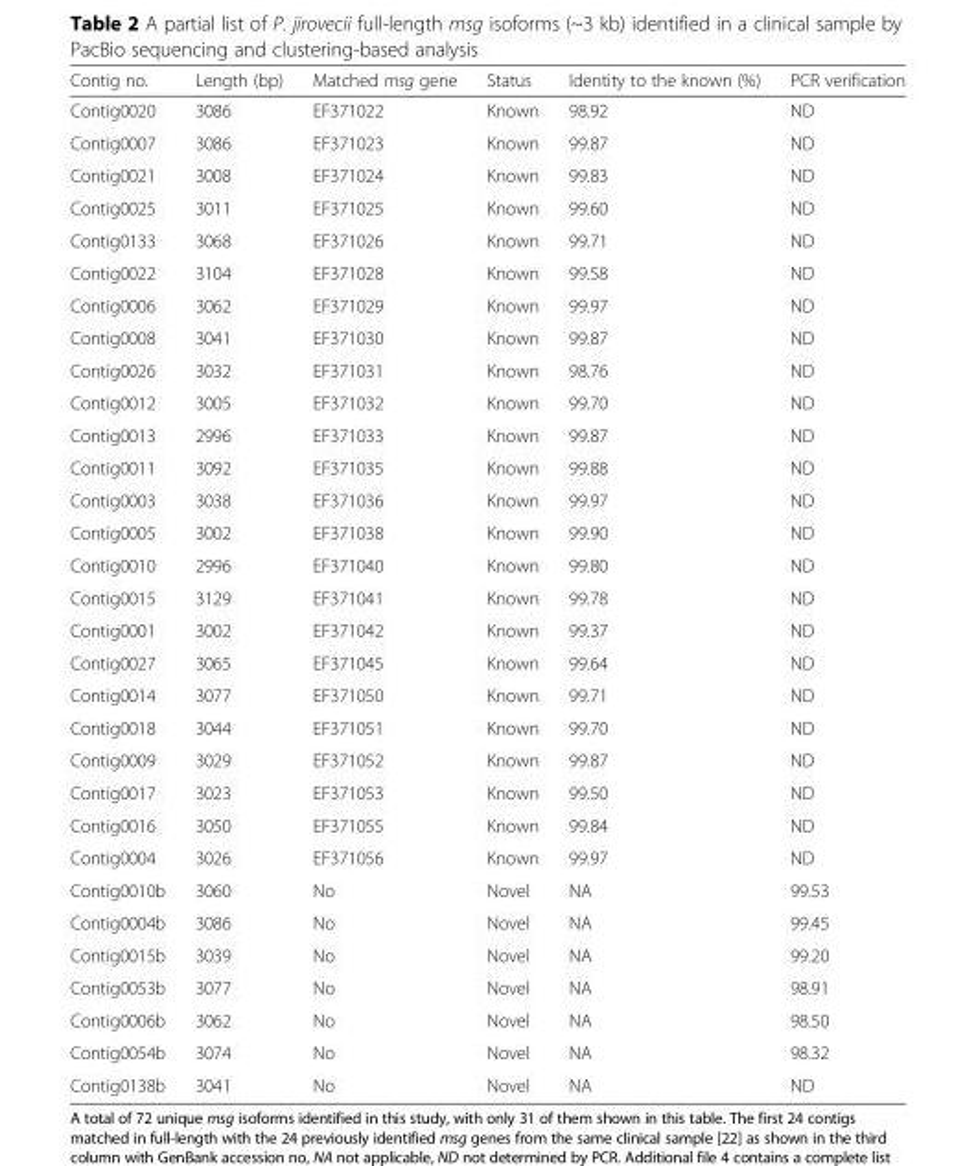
<table><thead><tr><td>Contig no.</td><td>Length (bp)</td><td>Matched msg gene</td><td>Status</td><td>Identity to the known (%)</td><td>PCR verification</td></tr></thead><tbody><tr><td>Contig0020</td><td>3086</td><td>EF371022</td><td>Known</td><td>98.92</td><td>ND</td></tr><tr><td>Contig0007</td><td>3086</td><td>EF371023</td><td>Known</td><td>99.87</td><td>ND</td></tr><tr><td>Contig0021</td><td>3008</td><td>EF371024</td><td>Known</td><td>99.83</td><td>ND</td></tr><tr><td>Contig0025</td><td>3011</td><td>EF371025</td><td>Known</td><td>99.60</td><td>ND</td></tr><tr><td>Contig0133</td><td>3068</td><td>EF371026</td><td>Known</td><td>99.71</td><td>ND</td></tr><tr><td>Contig0022</td><td>3104</td><td>EF371028</td><td>Known</td><td>99.58</td><td>ND</td></tr><tr><td>Contig0006</td><td>3062</td><td>EF371029</td><td>Known</td><td>99.97</td><td>ND</td></tr><tr><td>Contig0008</td><td>3041</td><td>EF371030</td><td>Known</td><td>99.87</td><td>ND</td></tr><tr><td>Contig0026</td><td>3032</td><td>EF371031</td><td>Known</td><td>98.76</td><td>ND</td></tr><tr><td>Contig0012</td><td>3005</td><td>EF371032</td><td>Known</td><td>99.70</td><td>ND</td></tr><tr><td>Contig0013</td><td>2996</td><td>EF371033</td><td>Known</td><td>99.87</td><td>ND</td></tr><tr><td>Contig0011</td><td>3092</td><td>EF371035</td><td>Known</td><td>99.88</td><td>ND</td></tr><tr><td>Contig0003</td><td>3038</td><td>EF371036</td><td>Known</td><td>99.97</td><td>ND</td></tr><tr><td>Contig0005</td><td>3002</td><td>EF371038</td><td>Known</td><td>99.90</td><td>ND</td></tr><tr><td>Contig0010</td><td>2996</td><td>EF371040</td><td>Known</td><td>99.80</td><td>ND</td></tr><tr><td>Contig0015</td><td>3129</td><td>EF371041</td><td>Known</td><td>99.78</td><td>ND</td></tr><tr><td>Contig0001</td><td>3002</td><td>EF371042</td><td>Known</td><td>99.37</td><td>ND</td></tr><tr><td>Contig0027</td><td>3065</td><td>EF371045</td><td>Known</td><td>99.64</td><td>ND</td></tr><tr><td>Contig0014</td><td>3077</td><td>EF371050</td><td>Known</td><td>99.71</td><td>ND</td></tr><tr><td>Contig0018</td><td>3044</td><td>EF371051</td><td>Known</td><td>99.70</td><td>ND</td></tr><tr><td>Contig0009</td><td>3029</td><td>EF371052</td><td>Known</td><td>99.87</td><td>ND</td></tr><tr><td>Contig0017</td><td>3023</td><td>EF371053</td><td>Known</td><td>99.50</td><td>ND</td></tr><tr><td>Contig0016</td><td>3050</td><td>EF371055</td><td>Known</td><td>99.84</td><td>ND</td></tr><tr><td>Contig0004</td><td>3026</td><td>EF371056</td><td>Known</td><td>99.97</td><td>ND</td></tr><tr><td>Contig0010b</td><td>3060</td><td>No</td><td>Novel</td><td>NA</td><td>99.53</td></tr><tr><td>Contig0004b</td><td>3086</td><td>No</td><td>Novel</td><td>NA</td><td>99.45</td></tr><tr><td>Contig0015b</td><td>3039</td><td>No</td><td>Novel</td><td>NA</td><td>99.20</td></tr><tr><td>Contig0053b</td><td>3077</td><td>No</td><td>Novel</td><td>NA</td><td>98.91</td></tr><tr><td>Contig0006b</td><td>3062</td><td>No</td><td>Novel</td><td>NA</td><td>98.50</td></tr><tr><td>Contig0054b</td><td>3074</td><td>No</td><td>Novel</td><td>NA</td><td>98.32</td></tr><tr><td>Contig0138b</td><td>3041</td><td>No</td><td>Novel</td><td>NA</td><td>ND</td></tr></tbody></table>